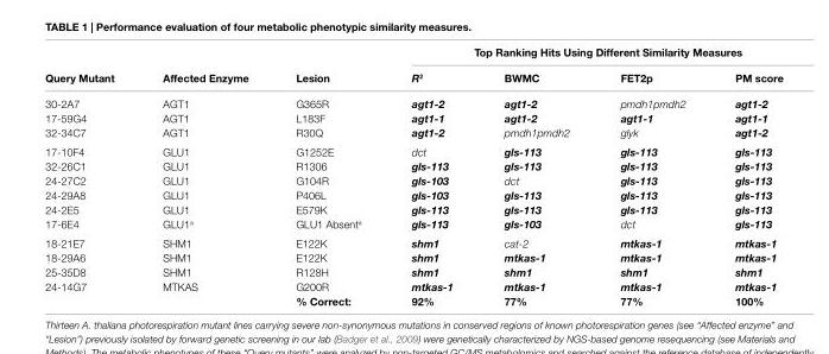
<table><thead><tr><td rowspan="2">Query Mutant</td><td rowspan="2">Affected enzyme</td><td rowspan="2">lesion</td><td colspan="4">Top Ranking hits Using Different Similarity Measures</td></tr><tr><td>R<sup>2</sup></td><td>BWMc</td><td>FeT2p</td><td>pM score</td></tr></thead><tbody><tr><td>30-2A7</td><td>AGT1</td><td>G365R</td><td>agt1-2</td><td>agt1-2</td><td>pmdh1pmdh2</td><td>agt1-2</td></tr><tr><td>17-59G4</td><td>AGT1</td><td>L183F</td><td>agt1-1</td><td>agt1-2</td><td>agt1-1</td><td>agt1-1</td></tr><tr><td>32-34C7</td><td>AGT1</td><td>R30Q</td><td>agt1-2</td><td>pmdh1pmdh2</td><td>glyk</td><td>agt1-2</td></tr><tr><td>17-10F4</td><td>GLU1</td><td>G1252E</td><td>dct</td><td>gls-113</td><td>gls-113</td><td>gls-113</td></tr><tr><td>32-26C1</td><td>GLU1</td><td>R1306</td><td>gls-113</td><td>gls-113</td><td>gls-113</td><td>gls-113</td></tr><tr><td>24-27C2</td><td>GLU1</td><td>G104R</td><td>gls-103</td><td>dct</td><td>gls-113</td><td>gls-113</td></tr><tr><td>24-29A8</td><td>GLU1</td><td>P406L</td><td>gls-103</td><td>gls-113</td><td>gls-113</td><td>gls-113</td></tr><tr><td>24-2E5</td><td>GLU1</td><td>E579K</td><td>gls-113</td><td>gls-113</td><td>gls-113</td><td>gls-113</td></tr><tr><td>17-6E4</td><td>GLU1<sup>a</sup></td><td>GLU1 Absent<sup>a</sup></td><td>gls-113</td><td>gls-103</td><td>dct</td><td>gls-113</td></tr><tr><td>18-21E7</td><td>SHM1</td><td>E122K</td><td>shm1</td><td>cat-2</td><td>mtkas-1</td><td>mtkas-1</td></tr><tr><td>18-29A6</td><td>SHM1</td><td>E122K</td><td>shm1</td><td>mtkas-1</td><td>mtkas-1</td><td>mtkas-1</td></tr><tr><td>25-35D8</td><td>SHM1</td><td>R128H</td><td>shm1</td><td>shm1</td><td>shm1</td><td>shm1</td></tr><tr><td rowspan="2">24-14G7</td><td>MTKAS</td><td>G200R</td><td>mtkas-1</td><td>mtkas-1</td><td>mtkas-1</td><td>mtkas-1</td></tr><tr><td></td><td>% correct:</td><td>92%</td><td>77%</td><td>77%</td><td>100%</td></tr></tbody></table>